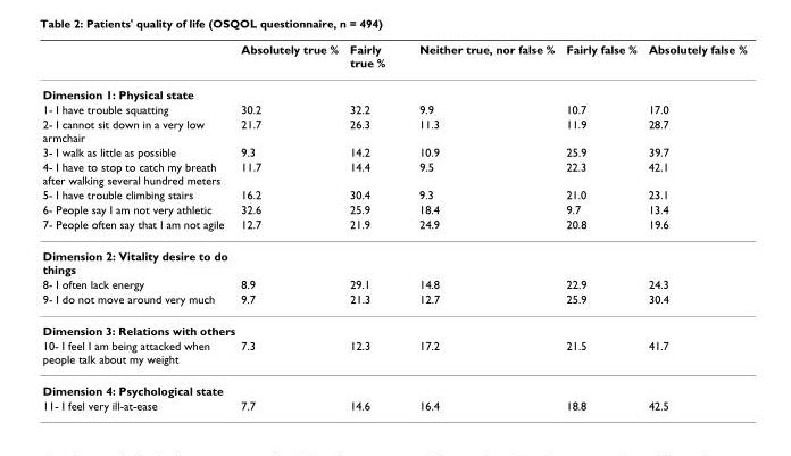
<table><thead><tr><td></td><td>Absolutely true %</td><td>Fairly true %</td><td>Neither true, nor false %</td><td>Fairly false %</td><td>Absolutely false %</td></tr></thead><tbody><tr><td colspan="6">Dimension 1: Physical state</td></tr><tr><td>1- I have trouble squatting</td><td>30.2</td><td>32.2</td><td>9.9</td><td>10.7</td><td>17.0</td></tr><tr><td>2- I cannot sit down in a very low armchair</td><td>21.7</td><td>26.3</td><td>11.3</td><td>11.9</td><td>28.7</td></tr><tr><td>3- I walk as little as possible</td><td>9.3</td><td>14.2</td><td>10.9</td><td>25.9</td><td>39.7</td></tr><tr><td>4- I have to stop to catch my breath after walking several hundred meters</td><td>11.7</td><td>14.4</td><td>9.5</td><td>22.3</td><td>42.1</td></tr><tr><td>5- I have trouble climbing stairs</td><td>16.2</td><td>30.4</td><td>9.3</td><td>21.0</td><td>23.1</td></tr><tr><td>6- People say I am not very athletic</td><td>32.6</td><td>25.9</td><td>18.4</td><td>9.7</td><td>13.4</td></tr><tr><td>7- People often say that I am not agile</td><td>12.7</td><td>21.9</td><td>24.9</td><td>20.8</td><td>19.6</td></tr><tr><td colspan="6">Dimension 2: Vitality desire to do things</td></tr><tr><td>8- I often lack energy</td><td>8.9</td><td>29.1</td><td>14.8</td><td>22.9</td><td>24.3</td></tr><tr><td>9- I do not move around very much</td><td>9.7</td><td>21.3</td><td>12.7</td><td>25.9</td><td>30.4</td></tr><tr><td colspan="6">Dimension 3: Relations with others</td></tr><tr><td>10- I feel I am being attacked when people talk about my weight</td><td>7.3</td><td>12.3</td><td>17.2</td><td>21.5</td><td>41.7</td></tr><tr><td colspan="6">Dimension 4: Psychological state</td></tr><tr><td>11- I feel very ill-at-ease</td><td>7.7</td><td>14.6</td><td>16.4</td><td>18.8</td><td>42.5</td></tr></tbody></table>